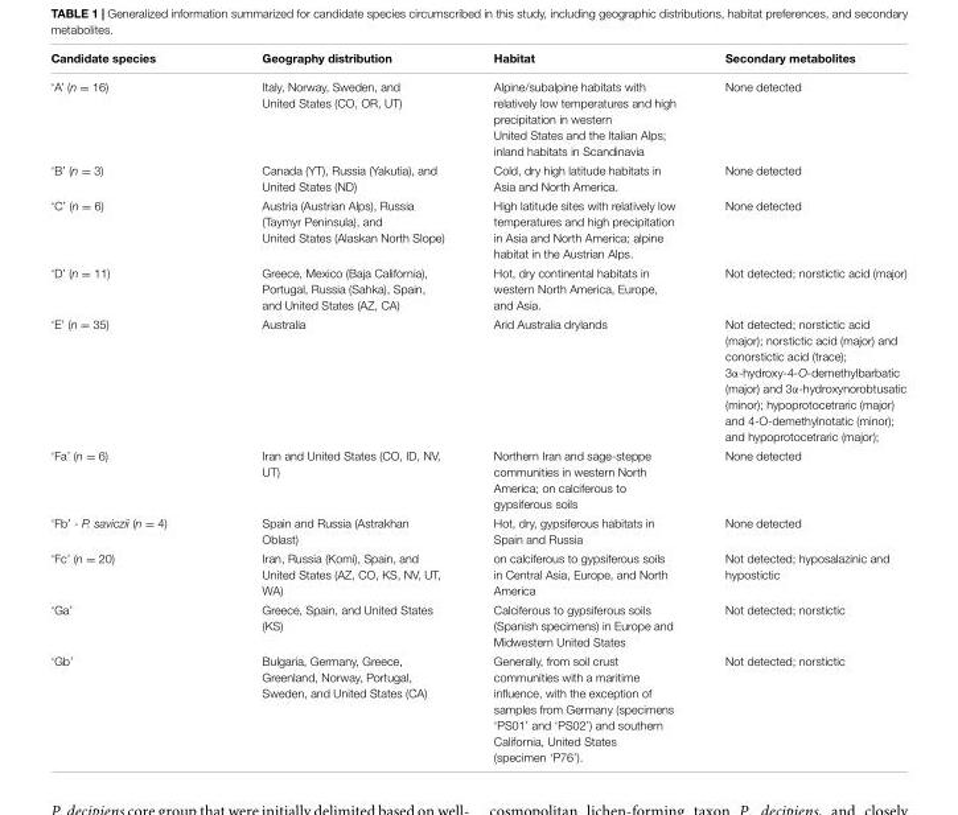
<table><thead><tr><td>Candidate species</td><td>Geography distribution</td><td>Habitat</td><td>Secondary metabolites</td></tr></thead><tbody><tr><td>‘A’ (n = 16)</td><td>Italy, Norway, Sweden, and United States (CO, OR, UT)</td><td>Alpine/subalpine habitats with relatively low temperatures and high precipitation in western United States and the Italian Alps; inland habitats in Scandinavia</td><td>None detected</td></tr><tr><td>‘B’ (n = 3)</td><td>Canada (YT), Russia (Yakutia), and United States (ND)</td><td>Cold, dry high latitude habitats in Asia and North America.</td><td>None detected</td></tr><tr><td>‘C’ (n = 6)</td><td>Austria (Austrian Alps), Russia (Taymyr Peninsula), and United States (Alaskan North Slope)</td><td>High latitude sites with relatively low temperatures and high precipitation in Asia and North America; alpine habitat in the Austrian Alps.</td><td>None detected</td></tr><tr><td>‘D’ (n = 11)</td><td>Greece, Mexico (Baja California), Portugal, Russia (Sahka), Spain, and United States (AZ, CA)</td><td>Hot, dry continental habitats in western North America, Europe, and Asia.</td><td>Not detected; norstictic acid (major)</td></tr><tr><td>‘E’ (n = 35)</td><td>Australia</td><td>Arid Australia drylands</td><td>Not detected; norstictic acid (major); norstictic acid (major) and conorstictic acid (trace); 3α-hydroxy-4-O-demethylbarbatic (major) and 3α-hydroxynorobtusatic (minor); hypoprotocetraric (major) and 4-O-demethylnotatic (minor); and hypoprotocetraric (major);</td></tr><tr><td>‘Fa’ (n = 6)</td><td>Iran and United States (CO, ID, NV, UT)</td><td>Northern Iran and sage-steppe communities in western North America; on calciferous to gypsiferous soils</td><td>None detected</td></tr><tr><td>‘Fb’ - P. saviczii (n = 4)</td><td>Spain and Russia (Astrakhan Oblast)</td><td>Hot, dry, gypsiferous habitats in Spain and Russia</td><td>None detected</td></tr><tr><td>‘Fc’ (n = 20)</td><td>Iran, Russia (Komi), Spain, and United States (AZ, CO, KS, NV, UT, WA)</td><td>on calciferous to gypsiferous soils in Central Asia, Europe, and North America</td><td>Not detected; hyposalazinic and hypostictic</td></tr><tr><td>‘Ga’</td><td>Greece, Spain, and United States (KS)</td><td>Calciferous to gypsiferous soils (Spanish specimens) in Europe and Midwestern United States</td><td>Not detected; norstictic</td></tr><tr><td>‘Gb’</td><td>Bulgaria, Germany, Greece, Greenland, Norway, Portugal, Sweden, and United States (CA)</td><td>Generally, from soil crust communities with a maritime influence, with the exception of samples from Germany (specimens ‘PS01’ and ‘PS02’) and southern California, United States (specimen ‘P76’).</td><td>Not detected; norstictic</td></tr></tbody></table>